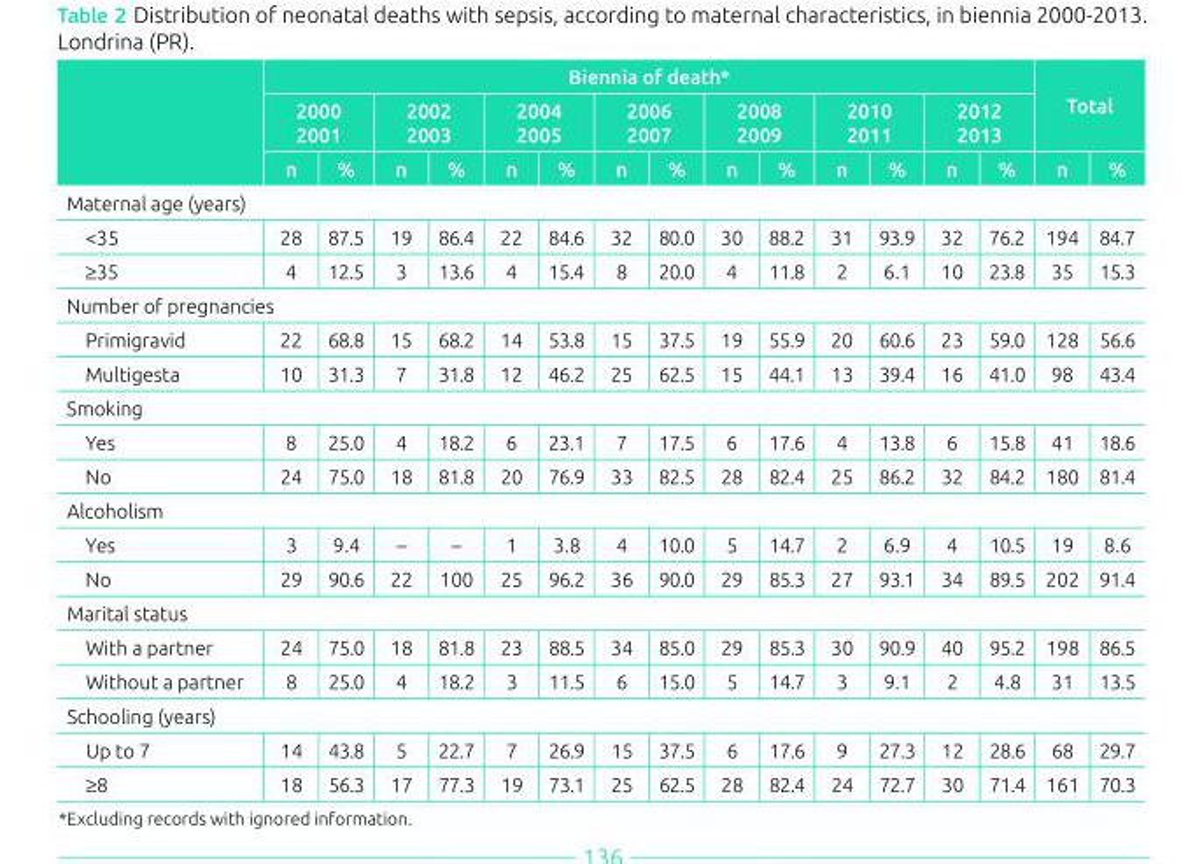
<table><thead><tr><td rowspan="3"></td><td colspan="14">Biennia of death*</td><td rowspan="2" colspan="2">Total</td></tr><tr><td colspan="2">2000 2001</td><td colspan="2">2002 2003</td><td colspan="2">2004 2005</td><td colspan="2">2006 2007</td><td colspan="2">2008 2009</td><td colspan="2">2010 2011</td><td colspan="2">2012 2013</td></tr><tr><td>n</td><td>%</td><td>n</td><td>%</td><td>n</td><td>%</td><td>n</td><td>%</td><td>n</td><td>%</td><td>n</td><td>%</td><td>n</td><td>%</td><td>n</td><td>%</td></tr></thead><tbody><tr><td colspan="17">Maternal age (years)</td></tr><tr><td>&lt;35</td><td>28</td><td>87.5</td><td>19</td><td>86.4</td><td>22</td><td>84.6</td><td>32</td><td>80.0</td><td>30</td><td>88.2</td><td>31</td><td>93.9</td><td>32</td><td>76.2</td><td>194</td><td>84.7</td></tr><tr><td>≥35</td><td>4</td><td>12.5</td><td>3</td><td>13.6</td><td>4</td><td>15.4</td><td>8</td><td>20.0</td><td>4</td><td>11.8</td><td>2</td><td>6.1</td><td>10</td><td>23.8</td><td>35</td><td>15.3</td></tr><tr><td colspan="17">Number of pregnancies</td></tr><tr><td>Primigravid</td><td>22</td><td>68.8</td><td>15</td><td>68.2</td><td>14</td><td>53.8</td><td>15</td><td>37.5</td><td>19</td><td>55.9</td><td>20</td><td>60.6</td><td>23</td><td>59.0</td><td>128</td><td>56.6</td></tr><tr><td>Multigesta</td><td>10</td><td>31.3</td><td>7</td><td>31.8</td><td>12</td><td>46.2</td><td>25</td><td>62.5</td><td>15</td><td>44.1</td><td>13</td><td>39.4</td><td>16</td><td>41.0</td><td>98</td><td>43.4</td></tr><tr><td colspan="17">Smoking</td></tr><tr><td>Yes</td><td>8</td><td>25.0</td><td>4</td><td>18.2</td><td>6</td><td>23.1</td><td>7</td><td>17.5</td><td>6</td><td>17.6</td><td>4</td><td>13.8</td><td>6</td><td>15.8</td><td>41</td><td>18.6</td></tr><tr><td>No</td><td>24</td><td>75.0</td><td>18</td><td>81.8</td><td>20</td><td>76.9</td><td>33</td><td>82.5</td><td>28</td><td>82.4</td><td>25</td><td>86.2</td><td>32</td><td>84.2</td><td>180</td><td>81.4</td></tr><tr><td colspan="17">Alcoholism</td></tr><tr><td>Yes</td><td>3</td><td>9.4</td><td>–</td><td>–</td><td>1</td><td>3.8</td><td>4</td><td>10.0</td><td>5</td><td>14.7</td><td>2</td><td>6.9</td><td>4</td><td>10.5</td><td>19</td><td>8.6</td></tr><tr><td>No</td><td>29</td><td>90.6</td><td>22</td><td>100</td><td>25</td><td>96.2</td><td>36</td><td>90.0</td><td>29</td><td>85.3</td><td>27</td><td>93.1</td><td>34</td><td>89.5</td><td>202</td><td>91.4</td></tr><tr><td colspan="17">Marital status</td></tr><tr><td>With a partner</td><td>24</td><td>75.0</td><td>18</td><td>81.8</td><td>23</td><td>88.5</td><td>34</td><td>85.0</td><td>29</td><td>85.3</td><td>30</td><td>90.9</td><td>40</td><td>95.2</td><td>198</td><td>86.5</td></tr><tr><td>Without a partner</td><td>8</td><td>25.0</td><td>4</td><td>18.2</td><td>3</td><td>11.5</td><td>6</td><td>15.0</td><td>5</td><td>14.7</td><td>3</td><td>9.1</td><td>2</td><td>4.8</td><td>31</td><td>13.5</td></tr><tr><td colspan="17">Schooling (years)</td></tr><tr><td>Up to 7</td><td>14</td><td>43.8</td><td>5</td><td>22.7</td><td>7</td><td>26.9</td><td>15</td><td>37.5</td><td>6</td><td>17.6</td><td>9</td><td>27.3</td><td>12</td><td>28.6</td><td>68</td><td>29.7</td></tr><tr><td>≥8</td><td>18</td><td>56.3</td><td>17</td><td>77.3</td><td>19</td><td>73.1</td><td>25</td><td>62.5</td><td>28</td><td>82.4</td><td>24</td><td>72.7</td><td>30</td><td>71.4</td><td>161</td><td>70.3</td></tr></tbody></table>